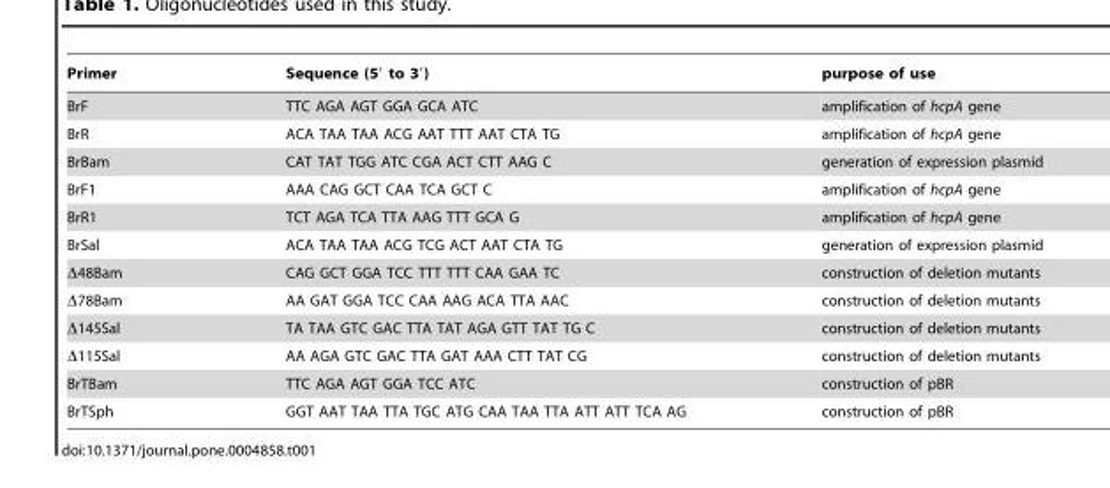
<table><thead><tr><td>Primer</td><td>Sequence (5′ to 3′)</td><td>purpose of use</td></tr></thead><tbody><tr><td>BrF</td><td>TTC AGA AGT GGA GCA ATC</td><td>amplification of hcpA gene</td></tr><tr><td>BrR</td><td>ACA TAA TAA ACG AAT TTT AAT CTA TG</td><td>amplification of hcpA gene</td></tr><tr><td>BrBam</td><td>CAT TAT TGG ATC CGA ACT CTT AAG C</td><td>generation of expression plasmid</td></tr><tr><td>BrF1</td><td>AAA CAG GCT CAA TCA GCT C</td><td>amplification of hcpA gene</td></tr><tr><td>BrR1</td><td>TCT AGA TCA TTA AAG TTT GCA G</td><td>amplification of hcpA gene</td></tr><tr><td>BrSal</td><td>ACA TAA TAA ACG TCG ACT AAT CTA TG</td><td>generation of expression plasmid</td></tr><tr><td>Δ48Bam</td><td>CAG GCT GGA TCC TTT TTT CAA GAA TC</td><td>construction of deletion mutants</td></tr><tr><td>Δ78Bam</td><td>AA GAT GGA TCC CAA AAG ACA TTA AAC</td><td>construction of deletion mutants</td></tr><tr><td>Δ145Sal</td><td>TA TAA GTC GAC TTA TAT AGA GTT TAT TG C</td><td>construction of deletion mutants</td></tr><tr><td>Δ115Sal</td><td>AA AGA GTC GAC TTA GAT AAA CTT TAT CG</td><td>construction of deletion mutants</td></tr><tr><td>BrTBam</td><td>TTC AGA AGT GGA TCC ATC</td><td>construction of pBR</td></tr><tr><td>BrTSph</td><td>GGT AAT TAA TTA TGC ATG CAA TAA TTA ATT ATT TCA AG</td><td>construction of pBR</td></tr></tbody></table>